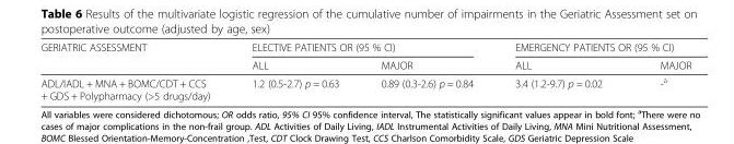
<table><thead><tr><td rowspan="2">GERIATRIC ASSESSMENT</td><td colspan="2">ELECTIVE PATIENTS OR (95 % CI)</td><td colspan="2">EMERGENCY PATIENTS OR (95 % CI)</td></tr><tr><td>ALL</td><td>MAJOR</td><td>ALL</td><td>MAJOR</td></tr></thead><tbody><tr><td>ADL/IADL + MNA + BOMC/CDT + CCS + GDS + Polypharmacy (&gt;5 drugs/day)</td><td>1.2 (0.5-2.7) p = 0.63</td><td>0.89 (0.3-2.6) p = 0.84</td><td>3.4 (1.2-9.7) p = 0.02</td><td>-<sup>a</sup></td></tr></tbody></table>